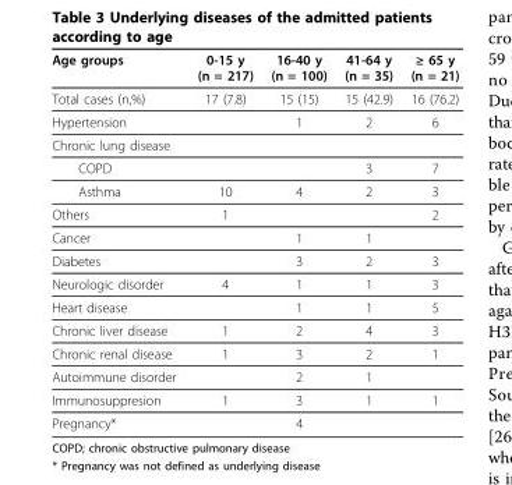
<table><thead><tr><td>Age groups</td><td>0-15 y (n = 217)</td><td>16-40 y (n = 100)</td><td>41-64 y (n = 35)</td><td>≥ 65 y (n = 21)</td></tr></thead><tbody><tr><td>Total cases (n,%)</td><td>17 (7.8)</td><td>15 (15)</td><td>15 (42.9)</td><td>16 (76.2)</td></tr><tr><td>Hypertension</td><td></td><td>1</td><td>2</td><td>6</td></tr><tr><td colspan="5">Chronic lung disease</td></tr><tr><td>COPD</td><td></td><td></td><td>3</td><td>7</td></tr><tr><td>Asthma</td><td>10</td><td>4</td><td>2</td><td>3</td></tr><tr><td>Others</td><td>1</td><td></td><td></td><td>2</td></tr><tr><td>Cancer</td><td></td><td>1</td><td>1</td><td></td></tr><tr><td>Diabetes</td><td></td><td>3</td><td>2</td><td>3</td></tr><tr><td>Neurologic disorder</td><td>4</td><td>1</td><td>1</td><td>3</td></tr><tr><td>Heart disease</td><td></td><td>1</td><td>1</td><td>5</td></tr><tr><td>Chronic liver disease</td><td>1</td><td>2</td><td>4</td><td>3</td></tr><tr><td>Chronic renal disease</td><td>1</td><td>3</td><td>2</td><td>1</td></tr><tr><td>Autoimmune disorder</td><td></td><td>2</td><td>1</td><td></td></tr><tr><td>Immunosuppresion</td><td>1</td><td>3</td><td>1</td><td>1</td></tr><tr><td>Pregnancy*</td><td></td><td>4</td><td></td><td></td></tr></tbody></table>